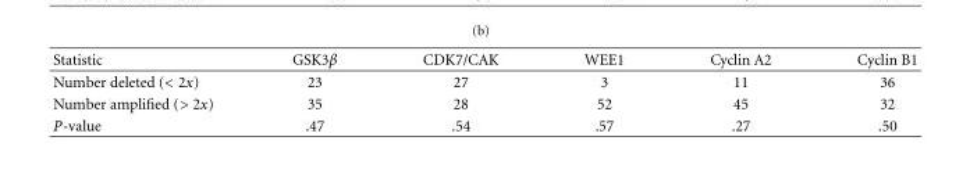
<table><thead><tr><td>Statistic</td><td>GSK3β</td><td>CDK7/CAK</td><td>WEE1</td><td>Cyclin A2</td><td>Cyclin B1</td></tr></thead><tbody><tr><td>Number deleted (&lt; 2x)</td><td>23</td><td>27</td><td>3</td><td>11</td><td>36</td></tr><tr><td>Number amplified (&gt; 2x)</td><td>35</td><td>28</td><td>52</td><td>45</td><td>32</td></tr><tr><td>P-value</td><td>.47</td><td>.54</td><td>.57</td><td>.27</td><td>.50</td></tr></tbody></table>